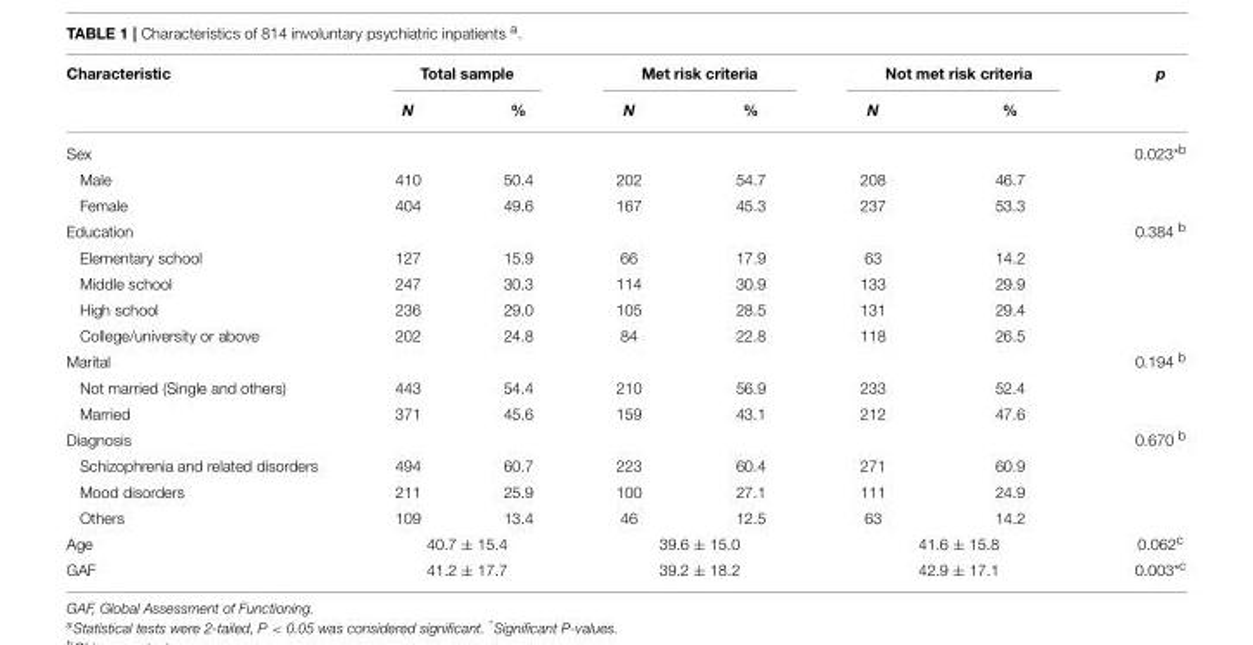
<table><thead><tr><td rowspan="2">Characteristic</td><td colspan="2">Total sample</td><td colspan="2">Met risk criteria</td><td colspan="2">Not met risk criteria</td><td rowspan="2">p</td></tr><tr><td>N</td><td>%</td><td>N</td><td>%</td><td>N</td><td>%</td></tr></thead><tbody><tr><td>Sex</td><td></td><td></td><td></td><td></td><td></td><td></td><td>0.023<sup>*b</sup></td></tr><tr><td>Male</td><td>410</td><td>50.4</td><td>202</td><td>54.7</td><td>208</td><td>46.7</td><td></td></tr><tr><td>Female</td><td>404</td><td>49.6</td><td>167</td><td>45.3</td><td>237</td><td>53.3</td><td></td></tr><tr><td>Education</td><td></td><td></td><td></td><td></td><td></td><td></td><td>0.384 <sup>b</sup></td></tr><tr><td>Elementary school</td><td>127</td><td>15.9</td><td>66</td><td>17.9</td><td>63</td><td>14.2</td><td></td></tr><tr><td>Middle school</td><td>247</td><td>30.3</td><td>114</td><td>30.9</td><td>133</td><td>29.9</td><td></td></tr><tr><td>High school</td><td>236</td><td>29.0</td><td>105</td><td>28.5</td><td>131</td><td>29.4</td><td></td></tr><tr><td>College/university or above</td><td>202</td><td>24.8</td><td>84</td><td>22.8</td><td>118</td><td>26.5</td><td></td></tr><tr><td>Marital</td><td></td><td></td><td></td><td></td><td></td><td></td><td>0.194 <sup>b</sup></td></tr><tr><td>Not married (Single and others)</td><td>443</td><td>54.4</td><td>210</td><td>56.9</td><td>233</td><td>52.4</td><td></td></tr><tr><td>Married</td><td>371</td><td>45.6</td><td>159</td><td>43.1</td><td>212</td><td>47.6</td><td></td></tr><tr><td>Diagnosis</td><td></td><td></td><td></td><td></td><td></td><td></td><td>0.670 <sup>b</sup></td></tr><tr><td>Schizophrenia and related disorders</td><td>494</td><td>60.7</td><td>223</td><td>60.4</td><td>271</td><td>60.9</td><td></td></tr><tr><td>Mood disorders</td><td>211</td><td>25.9</td><td>100</td><td>27.1</td><td>111</td><td>24.9</td><td></td></tr><tr><td>Others</td><td>109</td><td>13.4</td><td>46</td><td>12.5</td><td>63</td><td>14.2</td><td></td></tr><tr><td>Age</td><td colspan="2">40.7 ± 15.4</td><td colspan="2">39.6 ± 15.0</td><td colspan="2">41.6 ± 15.8</td><td>0.062<sup>c</sup></td></tr><tr><td>GAF</td><td colspan="2">41.2 ± 17.7</td><td colspan="2">39.2 ± 18.2</td><td colspan="2">42.9 ± 17.1</td><td>0.003<sup>*c</sup></td></tr></tbody></table>